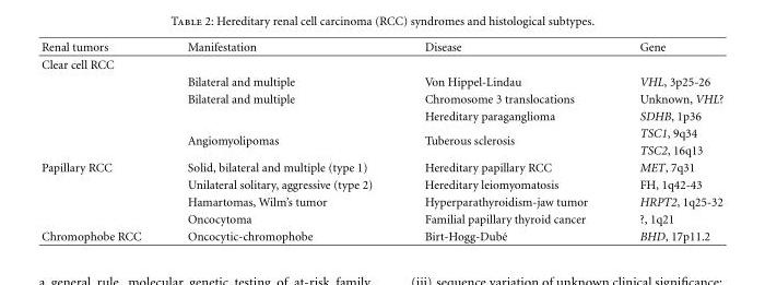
<table><thead><tr><td>Renal tumors</td><td>Manifestation</td><td>Disease</td><td>Gene</td></tr></thead><tbody><tr><td colspan="4">Clear cell RCC</td></tr><tr><td></td><td>Bilateral and multiple</td><td>Von Hippel-Lindau</td><td>VHL, 3p25-26</td></tr><tr><td></td><td>Bilateral and multiple</td><td>Chromosome 3 translocations</td><td>Unknown, VHL?</td></tr><tr><td></td><td></td><td>Hereditary paraganglioma</td><td>SDHB, 1p36</td></tr><tr><td></td><td rowspan="2">Angiomyolipomas</td><td rowspan="2">Tuberous sclerosis</td><td>TSC1, 9q34</td></tr><tr><td></td><td>TSC2, 16q13</td></tr><tr><td rowspan="4">Papillary RCC</td><td>Solid, bilateral and multiple (type 1)</td><td>Hereditary papillary RCC</td><td>MET, 7q31</td></tr><tr><td>Unilateral solitary, aggressive (type 2)</td><td>Hereditary leiomyomatosis</td><td>FH, 1q42-43</td></tr><tr><td>Hamartomas, Wilm’s tumor</td><td>Hyperparathyroidism-jaw tumor</td><td>HRPT2, 1q25-32</td></tr><tr><td>Oncocytoma</td><td>Familial papillary thyroid cancer</td><td>?, 1q21</td></tr><tr><td>Chromophobe RCC</td><td>Oncocytic-chromophobe</td><td>Birt-Hogg-Dub´e</td><td>BHD, 17p11.2</td></tr></tbody></table>